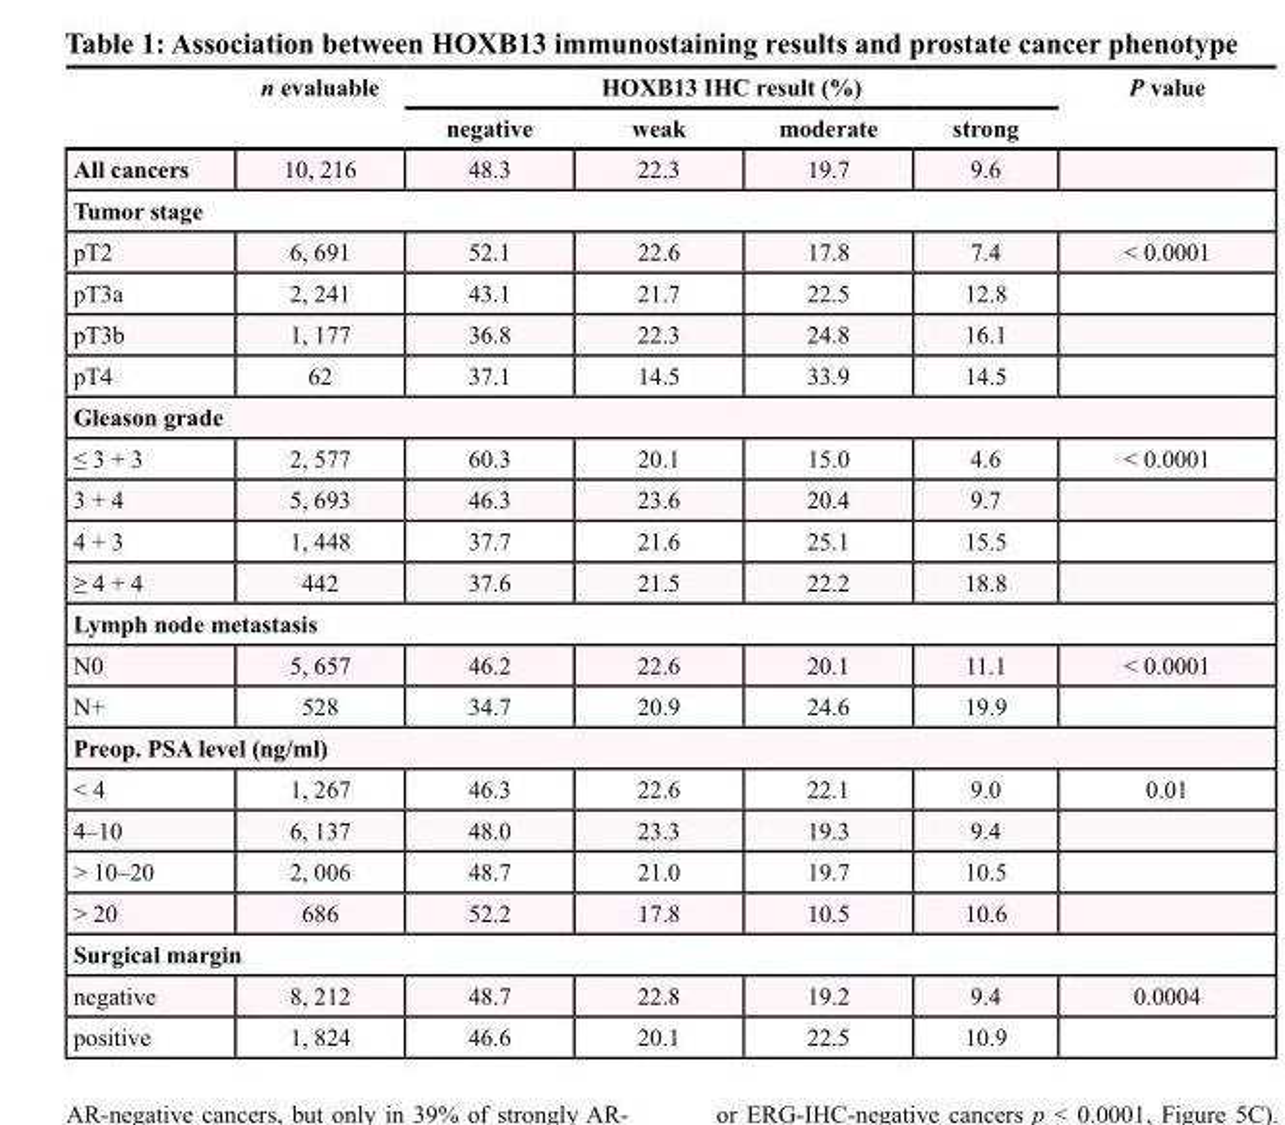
<table><thead><tr><td rowspan="2"></td><td rowspan="2">n evaluable</td><td colspan="4">HOXB13 IHC result (%)</td><td rowspan="2">P value</td></tr><tr><td>negative</td><td>weak</td><td>moderate</td><td>strong</td></tr></thead><tbody><tr><td>All cancers</td><td>10, 216</td><td>48.3</td><td>22.3</td><td>19.7</td><td>9.6</td><td></td></tr><tr><td colspan="7">Tumor stage</td></tr><tr><td>pT2</td><td>6, 691</td><td>52.1</td><td>22.6</td><td>17.8</td><td>7.4</td><td>&lt; 0.0001</td></tr><tr><td>pT3a</td><td>2, 241</td><td>43.1</td><td>21.7</td><td>22.5</td><td>12.8</td><td></td></tr><tr><td>pT3b</td><td>1, 177</td><td>36.8</td><td>22.3</td><td>24.8</td><td>16.1</td><td></td></tr><tr><td>pT4</td><td>62</td><td>37.1</td><td>14.5</td><td>33.9</td><td>14.5</td><td></td></tr><tr><td colspan="7">Gleason grade</td></tr><tr><td>≤ 3 + 3</td><td>2, 577</td><td>60.3</td><td>20.1</td><td>15.0</td><td>4.6</td><td>&lt; 0.0001</td></tr><tr><td>3 + 4</td><td>5, 693</td><td>46.3</td><td>23.6</td><td>20.4</td><td>9.7</td><td></td></tr><tr><td>4 + 3</td><td>1, 448</td><td>37.7</td><td>21.6</td><td>25.1</td><td>15.5</td><td></td></tr><tr><td>≥ 4 + 4</td><td>442</td><td>37.6</td><td>21.5</td><td>22.2</td><td>18.8</td><td></td></tr><tr><td colspan="7">Lymph node metastasis</td></tr><tr><td>N0</td><td>5, 657</td><td>46.2</td><td>22.6</td><td>20.1</td><td>11.1</td><td>&lt; 0.0001</td></tr><tr><td>N+</td><td>528</td><td>34.7</td><td>20.9</td><td>24.6</td><td>19.9</td><td></td></tr><tr><td colspan="7">Preop. PSA level (ng/ml)</td></tr><tr><td>&lt; 4</td><td>1, 267</td><td>46.3</td><td>22.6</td><td>22.1</td><td>9.0</td><td>0.01</td></tr><tr><td>4–10</td><td>6, 137</td><td>48.0</td><td>23.3</td><td>19.3</td><td>9.4</td><td></td></tr><tr><td>&gt; 10–20</td><td>2, 006</td><td>48.7</td><td>21.0</td><td>19.7</td><td>10.5</td><td></td></tr><tr><td>&gt; 20</td><td>686</td><td>52.2</td><td>17.8</td><td>10.5</td><td>10.6</td><td></td></tr><tr><td colspan="7">Surgical margin</td></tr><tr><td>negative</td><td>8, 212</td><td>48.7</td><td>22.8</td><td>19.2</td><td>9.4</td><td>0.0004</td></tr><tr><td>positive</td><td>1, 824</td><td>46.6</td><td>20.1</td><td>22.5</td><td>10.9</td><td></td></tr></tbody></table>